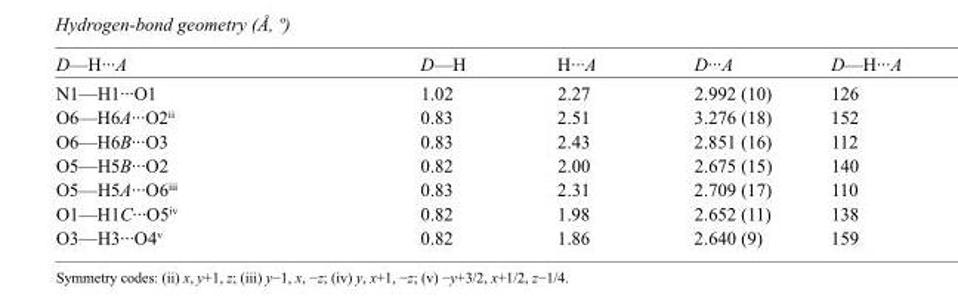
<table><tbody><tr><td>D—H···A</td><td>D—H</td><td>H···A</td><td>D···A</td><td>D—H···A</td></tr><tr><td>N1—H1···O1</td><td>1.02</td><td>2.27</td><td>2.992 (10)</td><td>126</td></tr><tr><td>O6—H6A···O2<sup>ii</sup></td><td>0.83</td><td>2.51</td><td>3.276 (18)</td><td>152</td></tr><tr><td>O6—H6B···O3</td><td>0.83</td><td>2.43</td><td>2.851 (16)</td><td>112</td></tr><tr><td>O5—H5B···O2</td><td>0.82</td><td>2.00</td><td>2.675 (15)</td><td>140</td></tr><tr><td>O5—H5A···O6<sup>iii</sup></td><td>0.83</td><td>2.31</td><td>2.709 (17)</td><td>110</td></tr><tr><td>O1—H1C···O5<sup>iv</sup></td><td>0.82</td><td>1.98</td><td>2.652 (11)</td><td>138</td></tr><tr><td>O3—H3···O4<sup>v</sup></td><td>0.82</td><td>1.86</td><td>2.640 (9)</td><td>159</td></tr></tbody></table>